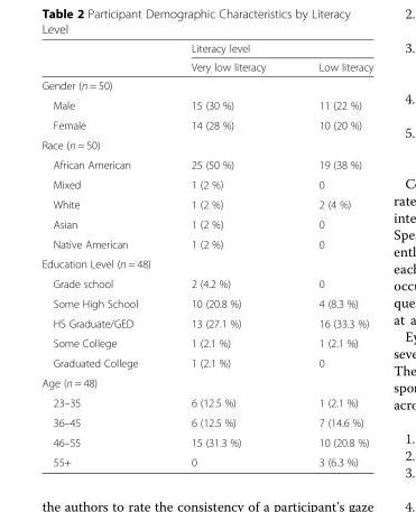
<table><thead><tr><td rowspan="2"></td><td colspan="2">Literacy level</td></tr><tr><td>Very low literacy</td><td>Low literacy</td></tr></thead><tbody><tr><td colspan="3">Gender (n = 50)</td></tr><tr><td>Male</td><td>15 (30 %)</td><td>11 (22 %)</td></tr><tr><td>Female</td><td>14 (28 %)</td><td>10 (20 %)</td></tr><tr><td colspan="3">Race (n = 50)</td></tr><tr><td>African American</td><td>25 (50 %)</td><td>19 (38 %)</td></tr><tr><td>Mixed</td><td>1 (2 %)</td><td>0</td></tr><tr><td>White</td><td>1 (2 %)</td><td>2 (4 %)</td></tr><tr><td>Asian</td><td>1 (2 %)</td><td>0</td></tr><tr><td>Native American</td><td>1 (2 %)</td><td>0</td></tr><tr><td colspan="3">Education Level (n = 48)</td></tr><tr><td>Grade school</td><td>2 (4.2 %)</td><td>0</td></tr><tr><td>Some High School</td><td>10 (20.8 %)</td><td>4 (8.3 %)</td></tr><tr><td>HS Graduate/GED</td><td>13 (27.1 %)</td><td>16 (33.3 %)</td></tr><tr><td>Some College</td><td>1 (2.1 %)</td><td>1 (2.1 %)</td></tr><tr><td>Graduated College</td><td>1 (2.1 %)</td><td>0</td></tr><tr><td colspan="3">Age (n = 48)</td></tr><tr><td>23–35</td><td>6 (12.5 %)</td><td>1 (2.1 %)</td></tr><tr><td>36–45</td><td>6 (12.5 %)</td><td>7 (14.6 %)</td></tr><tr><td>46–55</td><td>15 (31.3 %)</td><td>10 (20.8 %)</td></tr><tr><td>55+</td><td>0</td><td>3 (6.3 %)</td></tr></tbody></table>